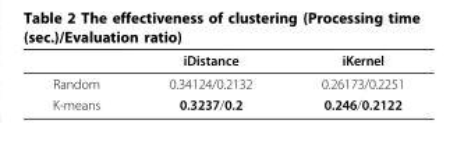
<table><thead><tr><td></td><td>iDistance</td><td>iKernel</td></tr></thead><tbody><tr><td>Random</td><td>0.34124/0.2132</td><td>0.26173/0.2251</td></tr><tr><td>K-means</td><td>0.3237/0.2</td><td>0.246/0.2122</td></tr></tbody></table>